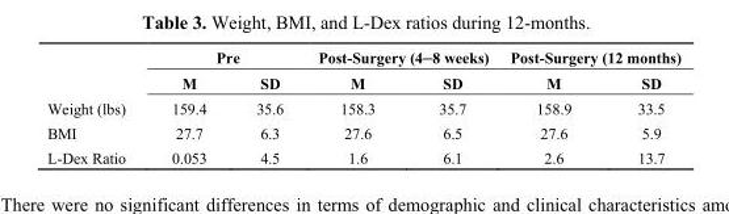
<table><thead><tr><td rowspan="2"></td><td colspan="2">Pre</td><td colspan="2">Post-Surgery (4–8 weeks)</td><td colspan="2">Post-Surgery (12 months)</td></tr><tr><td>M</td><td>SD</td><td>M</td><td>SD</td><td>M</td><td>SD</td></tr></thead><tbody><tr><td>Weight (lbs)</td><td>159.4</td><td>35.6</td><td>158.3</td><td>35.7</td><td>158.9</td><td>33.5</td></tr><tr><td>BMI</td><td>27.7</td><td>6.3</td><td>27.6</td><td>6.5</td><td>27.6</td><td>5.9</td></tr><tr><td>L-Dex Ratio</td><td>0.053</td><td>4.5</td><td>1.6</td><td>6.1</td><td>2.6</td><td>13.7</td></tr></tbody></table>